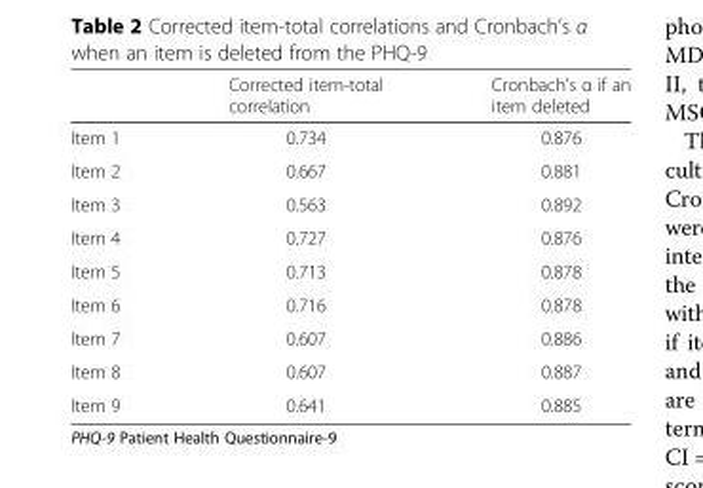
<table><thead><tr><td></td><td>Corrected item-total correlation</td><td>Cronbach’s α if an item deleted</td></tr></thead><tbody><tr><td>Item 1</td><td>0.734</td><td>0.876</td></tr><tr><td>Item 2</td><td>0.667</td><td>0.881</td></tr><tr><td>Item 3</td><td>0.563</td><td>0.892</td></tr><tr><td>Item 4</td><td>0.727</td><td>0.876</td></tr><tr><td>Item 5</td><td>0.713</td><td>0.878</td></tr><tr><td>Item 6</td><td>0.716</td><td>0.878</td></tr><tr><td>Item 7</td><td>0.607</td><td>0.886</td></tr><tr><td>Item 8</td><td>0.607</td><td>0.887</td></tr><tr><td>Item 9</td><td>0.641</td><td>0.885</td></tr></tbody></table>